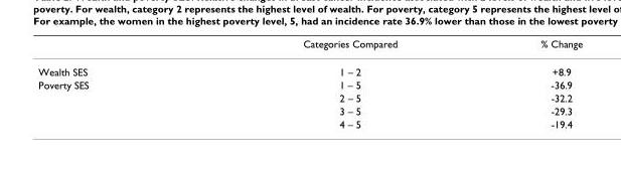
<table><thead><tr><td></td><td>Categories Compared</td><td>% Change</td></tr></thead><tbody><tr><td>Wealth SES</td><td>1 – 2</td><td>+8.9</td></tr><tr><td rowspan="4">Poverty SES</td><td>1 – 5</td><td>-36.9</td></tr><tr><td>2 – 5</td><td>-32.2</td></tr><tr><td>3 – 5</td><td>-29.3</td></tr><tr><td>4 – 5</td><td>-19.4</td></tr></tbody></table>